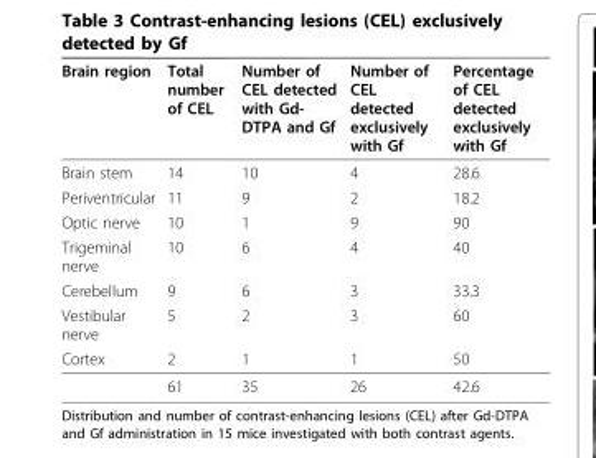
<table><thead><tr><td>Brain region</td><td>Total number of CEL</td><td>Number of CEL detected with Gd- DTPA and Gf</td><td>Number of CEL detected exclusively with Gf</td><td>Percentage of CEL detected exclusively with Gf</td></tr></thead><tbody><tr><td>Brain stem</td><td>14</td><td>10</td><td>4</td><td>28.6</td></tr><tr><td>Periventricular</td><td>11</td><td>9</td><td>2</td><td>18.2</td></tr><tr><td>Optic nerve</td><td>10</td><td>1</td><td>9</td><td>90</td></tr><tr><td>Trigeminal nerve</td><td>10</td><td>6</td><td>4</td><td>40</td></tr><tr><td>Cerebellum</td><td>9</td><td>6</td><td>3</td><td>33.3</td></tr><tr><td>Vestibular nerve</td><td>5</td><td>2</td><td>3</td><td>60</td></tr><tr><td rowspan="2">Cortex</td><td>2</td><td>1</td><td>1</td><td>50</td></tr><tr><td>61</td><td>35</td><td>26</td><td>42.6</td></tr></tbody></table>